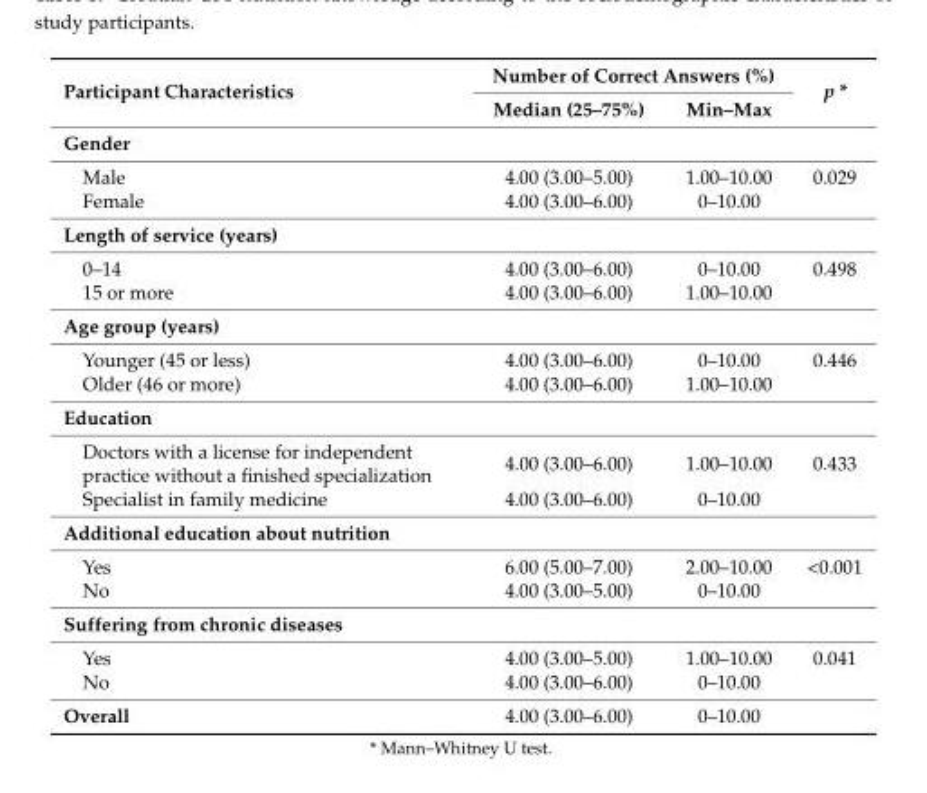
<table><thead><tr><td rowspan="2">Participant Characteristics</td><td colspan="2">Number of Correct Answers (%)</td><td rowspan="2">p *</td></tr><tr><td>Median (25–75%)</td><td>Min–Max</td></tr></thead><tbody><tr><td colspan="4">Gender</td></tr><tr><td>Male</td><td>4.00 (3.00–5.00)</td><td>1.00–10.00</td><td>0.029</td></tr><tr><td>Female</td><td>4.00 (3.00–6.00)</td><td>0–10.00</td><td></td></tr><tr><td colspan="4">Length of service (years)</td></tr><tr><td>0–14</td><td>4.00 (3.00–6.00)</td><td>0–10.00</td><td>0.498</td></tr><tr><td>15 or more</td><td>4.00 (3.00–6.00)</td><td>1.00–10.00</td><td></td></tr><tr><td colspan="4">Age group (years)</td></tr><tr><td>Younger (45 or less)</td><td>4.00 (3.00–6.00)</td><td>0–10.00</td><td>0.446</td></tr><tr><td>Older (46 or more)</td><td>4.00 (3.00–6.00)</td><td>1.00–10.00</td><td></td></tr><tr><td colspan="4">Education</td></tr><tr><td>Doctors with a license for independent practice without a finished specialization</td><td>4.00 (3.00–6.00)</td><td>1.00–10.00</td><td>0.433</td></tr><tr><td>Specialist in family medicine</td><td>4.00 (3.00–6.00)</td><td>0–10.00</td><td></td></tr><tr><td colspan="4">Additional education about nutrition</td></tr><tr><td>Yes</td><td>6.00 (5.00–7.00)</td><td>2.00–10.00</td><td>&lt;0.001</td></tr><tr><td>No</td><td>4.00 (3.00–5.00)</td><td>0–10.00</td><td></td></tr><tr><td colspan="4">Suffering from chronic diseases</td></tr><tr><td>Yes</td><td>4.00 (3.00–5.00)</td><td>1.00–10.00</td><td>0.041</td></tr><tr><td>No</td><td>4.00 (3.00–6.00)</td><td>0–10.00</td><td></td></tr><tr><td>Overall</td><td>4.00 (3.00–6.00)</td><td>0–10.00</td><td></td></tr></tbody></table>